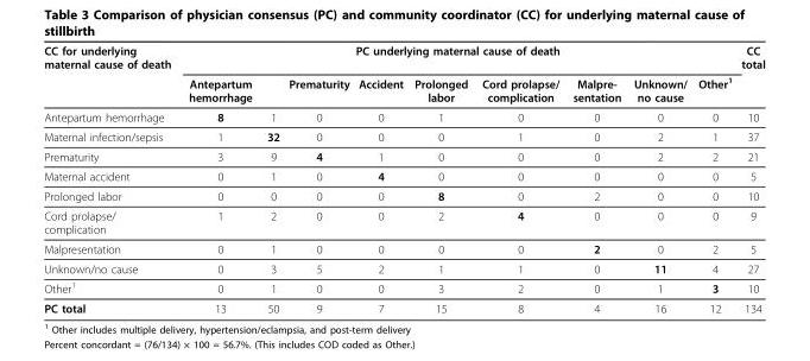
<table><thead><tr><td rowspan="2">CC for underlying maternal cause of death</td><td colspan="9">PC underlying maternal cause of death</td><td rowspan="2">CC total</td></tr><tr><td>Antepartum hemorrhage</td><td></td><td>Prematurity</td><td>Accident</td><td>Prolonged labor</td><td>Cord prolapse/ complication</td><td>Malpre- sentation</td><td>Unknown/ no cause</td><td>Other<sup>1</sup></td></tr></thead><tbody><tr><td>Antepartum hemorrhage</td><td>8</td><td>1</td><td>0</td><td>0</td><td>1</td><td>0</td><td>0</td><td>0</td><td>0</td><td>10</td></tr><tr><td>Maternal infection/sepsis</td><td>1</td><td>32</td><td>0</td><td>0</td><td>0</td><td>1</td><td>0</td><td>2</td><td>1</td><td>37</td></tr><tr><td>Prematurity</td><td>3</td><td>9</td><td>4</td><td>1</td><td>0</td><td>0</td><td>0</td><td>2</td><td>2</td><td>21</td></tr><tr><td>Maternal accident</td><td>0</td><td>1</td><td>0</td><td>4</td><td>0</td><td>0</td><td>0</td><td>0</td><td>0</td><td>5</td></tr><tr><td>Prolonged labor</td><td>0</td><td>0</td><td>0</td><td>0</td><td>8</td><td>0</td><td>2</td><td>0</td><td>0</td><td>10</td></tr><tr><td>Cord prolapse/ complication</td><td>1</td><td>2</td><td>0</td><td>0</td><td>2</td><td>4</td><td>0</td><td>0</td><td>0</td><td>9</td></tr><tr><td>Malpresentation</td><td>0</td><td>1</td><td>0</td><td>0</td><td>0</td><td>0</td><td>2</td><td>0</td><td>2</td><td>5</td></tr><tr><td>Unknown/no cause</td><td>0</td><td>3</td><td>5</td><td>2</td><td>1</td><td>1</td><td>0</td><td>11</td><td>4</td><td>27</td></tr><tr><td>Other<sup>1</sup></td><td>0</td><td>1</td><td>0</td><td>0</td><td>3</td><td>2</td><td>0</td><td>1</td><td>3</td><td>10</td></tr><tr><td>PC total</td><td>13</td><td>50</td><td>9</td><td>7</td><td>15</td><td>8</td><td>4</td><td>16</td><td>12</td><td>134</td></tr></tbody></table>